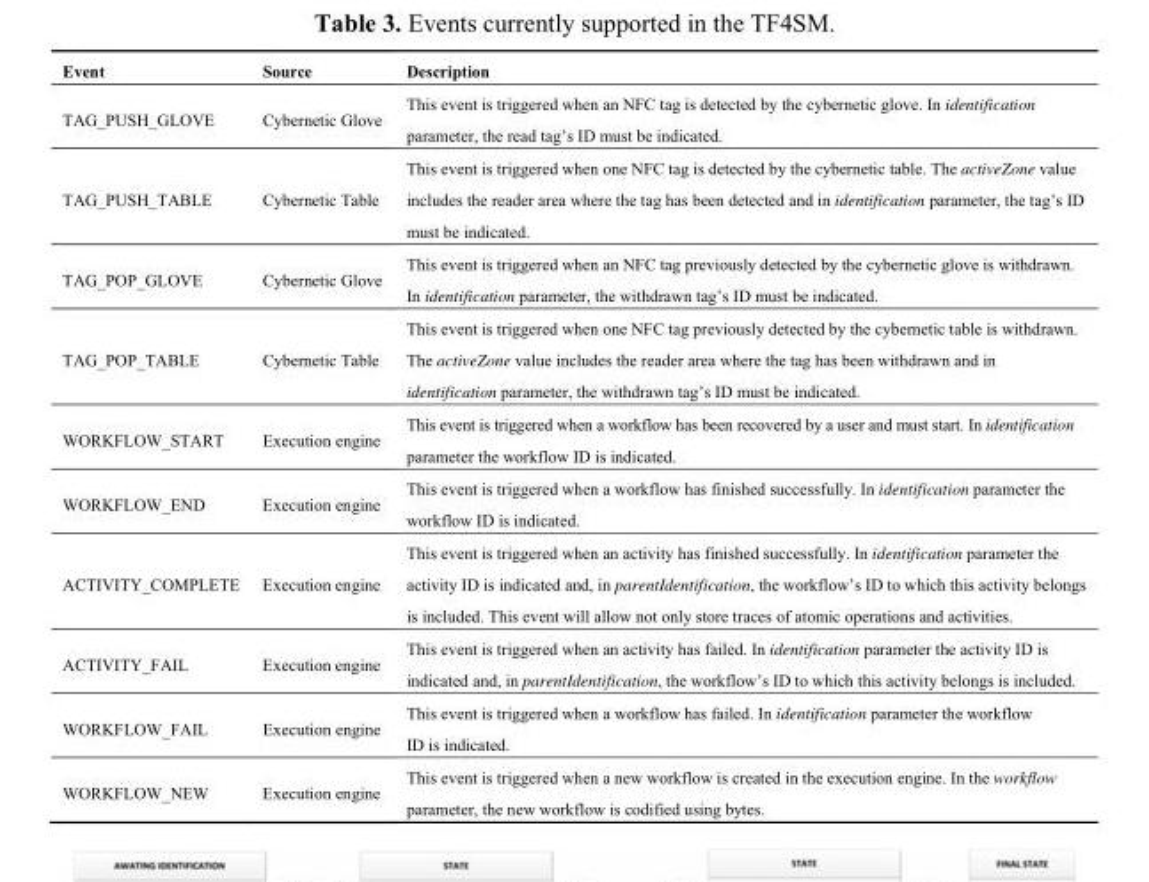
<table><thead><tr><td>Event</td><td>Source</td><td>Description</td></tr></thead><tbody><tr><td>TAG_PUSH_GLOVE</td><td>Cybernetic Glove</td><td>This event is triggered when an NFC tag is detected by the cybernetic glove. In identification parameter, the read tag’s ID must be indicated.</td></tr><tr><td>TAG_PUSH_TABLE</td><td>Cybernetic Table</td><td>This event is triggered when one NFC tag is detected by the cybernetic table. The activeZone value includes the reader area where the tag has been detected and in identification parameter, the tag’s ID must be indicated.</td></tr><tr><td>TAG_POP_GLOVE</td><td>Cybernetic Glove</td><td>This event is triggered when an NFC tag previously detected by the cybernetic glove is withdrawn. In identification parameter, the withdrawn tag’s ID must be indicated.</td></tr><tr><td>TAG_POP_TABLE</td><td>Cybernetic Table</td><td>This event is triggered when one NFC tag previously detected by the cybernetic table is withdrawn. The activeZone value includes the reader area where the tag has been withdrawn and in identification parameter, the withdrawn tag’s ID must be indicated.</td></tr><tr><td>WORKFLOW_START</td><td>Execution engine</td><td>This event is triggered when a workflow has been recovered by a user and must start. In identification parameter the workflow ID is indicated.</td></tr><tr><td>WORKFLOW_END</td><td>Execution engine</td><td>This event is triggered when a workflow has finished successfully. In identification parameter the workflow ID is indicated.</td></tr><tr><td>ACTIVITY_COMPLETE</td><td>Execution engine</td><td>This event is triggered when an activity has finished successfully. In identification parameter the activity ID is indicated and, in parentIdentification, the workflow’s ID to which this activity belongs is included. This event will allow not only store traces of atomic operations and activities.</td></tr><tr><td>ACTIVITY_FAIL</td><td>Execution engine</td><td>This event is triggered when an activity has failed. In identification parameter the activity ID is indicated and, in parentIdentification, the workflow’s ID to which this activity belongs is included.</td></tr><tr><td>WORKFLOW_FAIL</td><td>Execution engine</td><td>This event is triggered when a workflow has failed. In identification parameter the workflow ID is indicated.</td></tr><tr><td>WORKFLOW_NEW</td><td>Execution engine</td><td>This event is triggered when a new workflow is created in the execution engine. In the workflow parameter, the new workflow is codified using bytes.</td></tr></tbody></table>